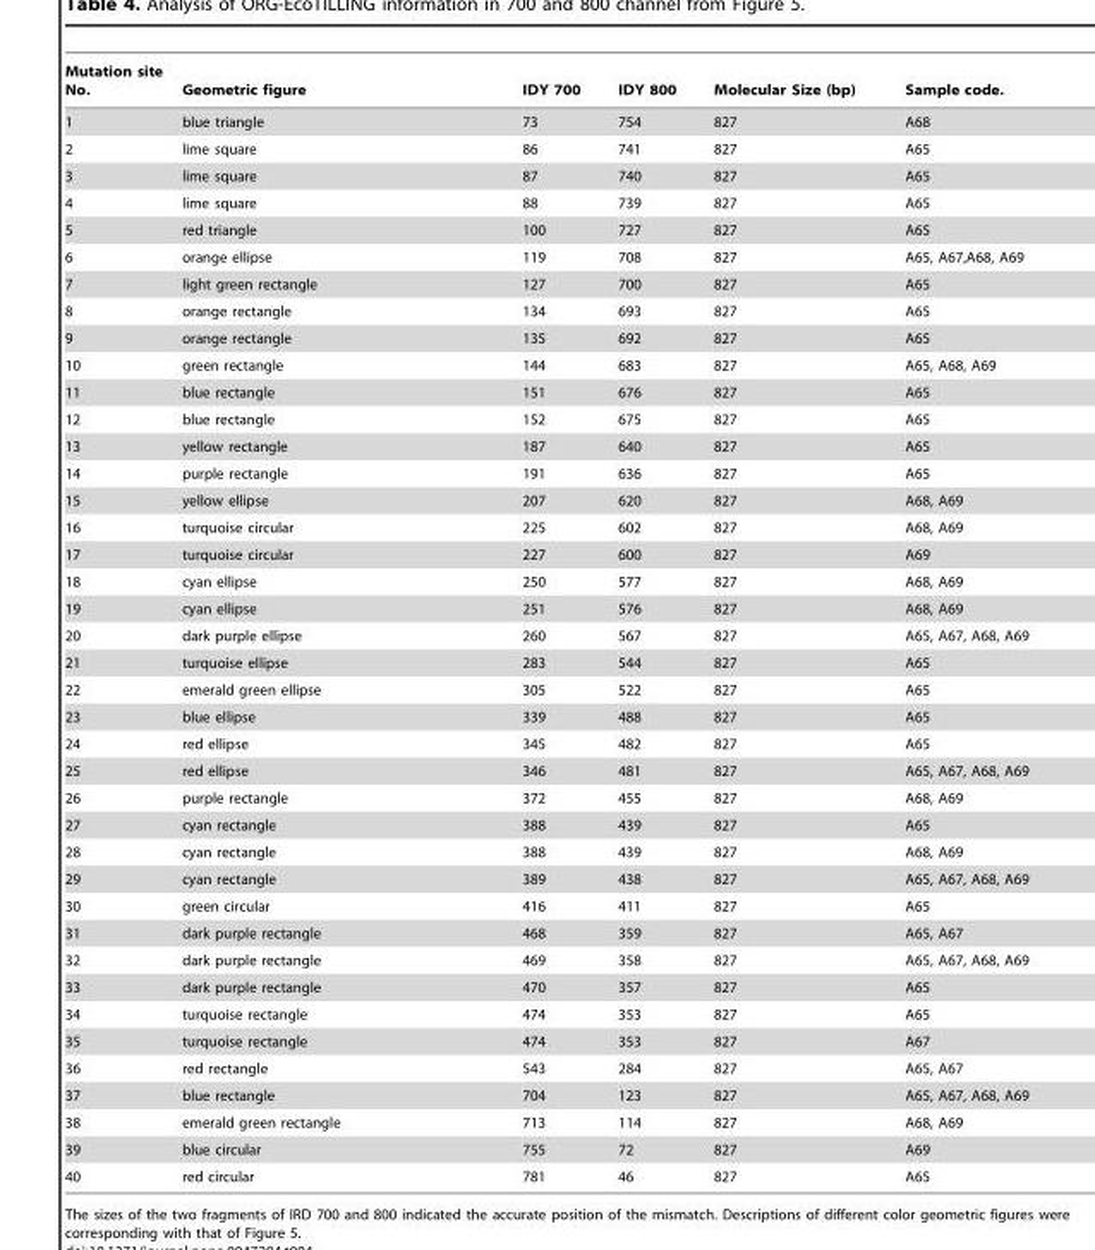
<table><thead><tr><td>Mutation site No.</td><td>Geometric figure</td><td>IDY 700</td><td>IDY 800</td><td>Molecular Size (bp)</td><td>Sample code.</td></tr></thead><tbody><tr><td>1</td><td>blue triangle</td><td>73</td><td>754</td><td>827</td><td>A68</td></tr><tr><td>2</td><td>lime square</td><td>86</td><td>741</td><td>827</td><td>A65</td></tr><tr><td>3</td><td>lime square</td><td>87</td><td>740</td><td>827</td><td>A65</td></tr><tr><td>4</td><td>lime square</td><td>88</td><td>739</td><td>827</td><td>A65</td></tr><tr><td>5</td><td>red triangle</td><td>100</td><td>727</td><td>827</td><td>A65</td></tr><tr><td>6</td><td>orange ellipse</td><td>119</td><td>708</td><td>827</td><td>A65, A67,A68, A69</td></tr><tr><td>7</td><td>light green rectangle</td><td>127</td><td>700</td><td>827</td><td>A65</td></tr><tr><td>8</td><td>orange rectangle</td><td>134</td><td>693</td><td>827</td><td>A65</td></tr><tr><td>9</td><td>orange rectangle</td><td>135</td><td>692</td><td>827</td><td>A65</td></tr><tr><td>10</td><td>green rectangle</td><td>144</td><td>683</td><td>827</td><td>A65, A68, A69</td></tr><tr><td>11</td><td>blue rectangle</td><td>151</td><td>676</td><td>827</td><td>A65</td></tr><tr><td>12</td><td>blue rectangle</td><td>152</td><td>675</td><td>827</td><td>A65</td></tr><tr><td>13</td><td>yellow rectangle</td><td>187</td><td>640</td><td>827</td><td>A65</td></tr><tr><td>14</td><td>purple rectangle</td><td>191</td><td>636</td><td>827</td><td>A65</td></tr><tr><td>15</td><td>yellow ellipse</td><td>207</td><td>620</td><td>827</td><td>A68, A69</td></tr><tr><td>16</td><td>turquoise circular</td><td>225</td><td>602</td><td>827</td><td>A68, A69</td></tr><tr><td>17</td><td>turquoise circular</td><td>227</td><td>600</td><td>827</td><td>A69</td></tr><tr><td>18</td><td>cyan ellipse</td><td>250</td><td>577</td><td>827</td><td>A68, A69</td></tr><tr><td>19</td><td>cyan ellipse</td><td>251</td><td>576</td><td>827</td><td>A68, A69</td></tr><tr><td>20</td><td>dark purple ellipse</td><td>260</td><td>567</td><td>827</td><td>A65, A67, A68, A69</td></tr><tr><td>21</td><td>turquoise ellipse</td><td>283</td><td>544</td><td>827</td><td>A65</td></tr><tr><td>22</td><td>emerald green ellipse</td><td>305</td><td>522</td><td>827</td><td>A65</td></tr><tr><td>23</td><td>blue ellipse</td><td>339</td><td>488</td><td>827</td><td>A65</td></tr><tr><td>24</td><td>red ellipse</td><td>345</td><td>482</td><td>827</td><td>A65</td></tr><tr><td>25</td><td>red ellipse</td><td>346</td><td>481</td><td>827</td><td>A65, A67, A68, A69</td></tr><tr><td>26</td><td>purple rectangle</td><td>372</td><td>455</td><td>827</td><td>A68, A69</td></tr><tr><td>27</td><td>cyan rectangle</td><td>388</td><td>439</td><td>827</td><td>A65</td></tr><tr><td>28</td><td>cyan rectangle</td><td>388</td><td>439</td><td>827</td><td>A68, A69</td></tr><tr><td>29</td><td>cyan rectangle</td><td>389</td><td>438</td><td>827</td><td>A65, A67, A68, A69</td></tr><tr><td>30</td><td>green circular</td><td>416</td><td>411</td><td>827</td><td>A65</td></tr><tr><td>31</td><td>dark purple rectangle</td><td>468</td><td>359</td><td>827</td><td>A65, A67</td></tr><tr><td>32</td><td>dark purple rectangle</td><td>469</td><td>358</td><td>827</td><td>A65, A67, A68, A69</td></tr><tr><td>33</td><td>dark purple rectangle</td><td>470</td><td>357</td><td>827</td><td>A65</td></tr><tr><td>34</td><td>turquoise rectangle</td><td>474</td><td>353</td><td>827</td><td>A65</td></tr><tr><td>35</td><td>turquoise rectangle</td><td>474</td><td>353</td><td>827</td><td>A67</td></tr><tr><td>36</td><td>red rectangle</td><td>543</td><td>284</td><td>827</td><td>A65, A67</td></tr><tr><td>37</td><td>blue rectangle</td><td>704</td><td>123</td><td>827</td><td>A65, A67, A68, A69</td></tr><tr><td>38</td><td>emerald green rectangle</td><td>713</td><td>114</td><td>827</td><td>A68, A69</td></tr><tr><td>39</td><td>blue circular</td><td>755</td><td>72</td><td>827</td><td>A69</td></tr><tr><td>40</td><td>red circular</td><td>781</td><td>46</td><td>827</td><td>A65</td></tr></tbody></table>